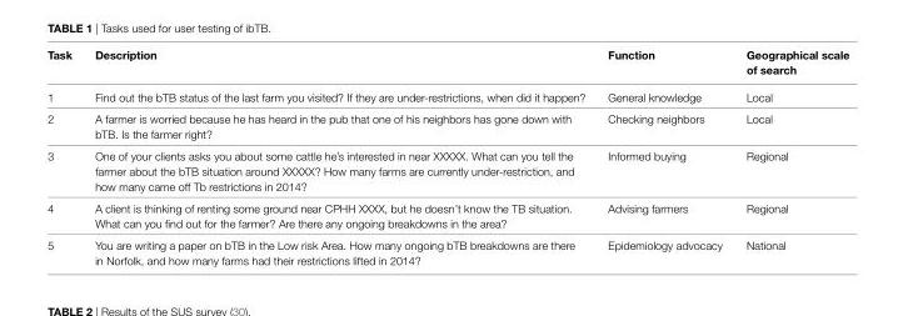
<table><thead><tr><td>Task</td><td>Description</td><td>Function</td><td>geographical scale of search</td></tr></thead><tbody><tr><td>1</td><td>Find out the bTB status of the last farm you visited? If they are under-restrictions, when did it happen?</td><td>General knowledge</td><td>Local</td></tr><tr><td>2</td><td>A farmer is worried because he has heard in the pub that one of his neighbors has gone down with bTB. Is the farmer right?</td><td>Checking neighbors</td><td>Local</td></tr><tr><td>3</td><td>One of your clients asks you about some cattle he’s interested in near XXXXX. What can you tell the farmer about the bTB situation around XXXXX? How many farms are currently under-restriction, and how many came off Tb restrictions in 2014?</td><td>Informed buying</td><td>Regional</td></tr><tr><td>4</td><td>A client is thinking of renting some ground near CPHH XXXX, but he doesn’t know the TB situation. What can you find out for the farmer? Are there any ongoing breakdowns in the area?</td><td>Advising farmers</td><td>Regional</td></tr><tr><td>5</td><td>You are writing a paper on bTB in the Low risk Area. How many ongoing bTB breakdowns are there in Norfolk, and how many farms had their restrictions lifted in 2014?</td><td>Epidemiology advocacy</td><td>National</td></tr></tbody></table>